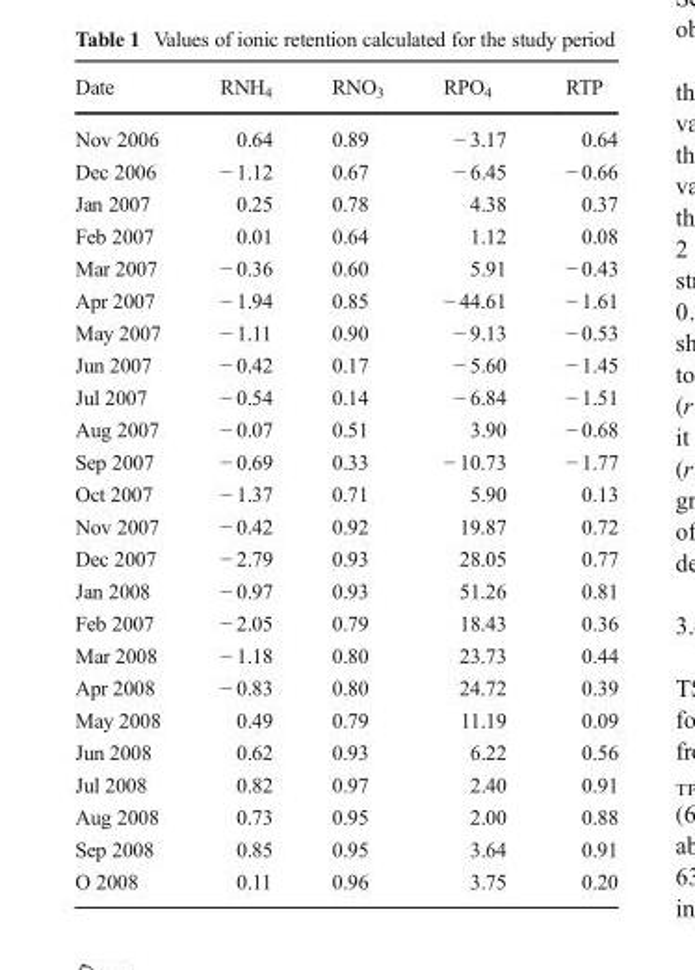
<table><thead><tr><td>Date</td><td>RNH<sub>4</sub></td><td>RNO<sub>3</sub></td><td>RPO<sub>4</sub></td><td>RTP</td></tr></thead><tbody><tr><td>Nov 2006</td><td>0.64</td><td>0.89</td><td>− 3.17</td><td>0.64</td></tr><tr><td>Dec 2006</td><td>− 1.12</td><td>0.67</td><td>− 6.45</td><td>− 0.66</td></tr><tr><td>Jan 2007</td><td>0.25</td><td>0.78</td><td>4.38</td><td>0.37</td></tr><tr><td>Feb 2007</td><td>0.01</td><td>0.64</td><td>1.12</td><td>0.08</td></tr><tr><td>Mar 2007</td><td>− 0.36</td><td>0.60</td><td>5.91</td><td>− 0.43</td></tr><tr><td>Apr 2007</td><td>− 1.94</td><td>0.85</td><td>− 44.61</td><td>− 1.61</td></tr><tr><td>May 2007</td><td>− 1.11</td><td>0.90</td><td>− 9.13</td><td>− 0.53</td></tr><tr><td>Jun 2007</td><td>− 0.42</td><td>0.17</td><td>− 5.60</td><td>− 1.45</td></tr><tr><td>Jul 2007</td><td>− 0.54</td><td>0.14</td><td>− 6.84</td><td>− 1.51</td></tr><tr><td>Aug 2007</td><td>− 0.07</td><td>0.51</td><td>3.90</td><td>− 0.68</td></tr><tr><td>Sep 2007</td><td>− 0.69</td><td>0.33</td><td>− 10.73</td><td>− 1.77</td></tr><tr><td>Oct 2007</td><td>− 1.37</td><td>0.71</td><td>5.90</td><td>0.13</td></tr><tr><td>Nov 2007</td><td>− 0.42</td><td>0.92</td><td>19.87</td><td>0.72</td></tr><tr><td>Dec 2007</td><td>− 2.79</td><td>0.93</td><td>28.05</td><td>0.77</td></tr><tr><td>Jan 2008</td><td>− 0.97</td><td>0.93</td><td>51.26</td><td>0.81</td></tr><tr><td>Feb 2007</td><td>− 2.05</td><td>0.79</td><td>18.43</td><td>0.36</td></tr><tr><td>Mar 2008</td><td>− 1.18</td><td>0.80</td><td>23.73</td><td>0.44</td></tr><tr><td>Apr 2008</td><td>− 0.83</td><td>0.80</td><td>24.72</td><td>0.39</td></tr><tr><td>May 2008</td><td>0.49</td><td>0.79</td><td>11.19</td><td>0.09</td></tr><tr><td>Jun 2008</td><td>0.62</td><td>0.93</td><td>6.22</td><td>0.56</td></tr><tr><td>Jul 2008</td><td>0.82</td><td>0.97</td><td>2.40</td><td>0.91</td></tr><tr><td>Aug 2008</td><td>0.73</td><td>0.95</td><td>2.00</td><td>0.88</td></tr><tr><td>Sep 2008</td><td>0.85</td><td>0.95</td><td>3.64</td><td>0.91</td></tr><tr><td>O 2008</td><td>0.11</td><td>0.96</td><td>3.75</td><td>0.20</td></tr></tbody></table>